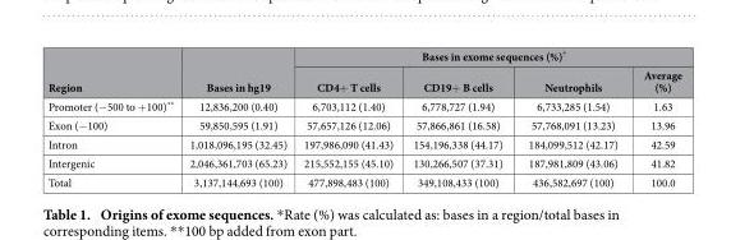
<table><thead><tr><td rowspan="2">Region</td><td rowspan="2">Bases in hg19</td><td colspan="4">Bases in exome sequences (%)*</td></tr><tr><td>CD4+ T cells</td><td>CD19+ B cells</td><td>Neutrophils</td><td>Average (%)</td></tr></thead><tbody><tr><td>Promoter (− 500 to + 100)**</td><td>12,836,200 (0.40)</td><td>6,703,112 (1.40)</td><td>6,778,727 (1.94)</td><td>6,733,285 (1.54)</td><td>1.63</td></tr><tr><td>Exon (− 100)</td><td>59,850,595 (1.91)</td><td>57,657,126 (12.06)</td><td>57,866,861 (16.58)</td><td>57,768,091 (13.23)</td><td>13.96</td></tr><tr><td>Intron</td><td>1,018,096,195 (32.45)</td><td>197,986,090 (41.43)</td><td>154,196,338 (44.17)</td><td>184,099,512 (42.17)</td><td>42.59</td></tr><tr><td>Intergenic</td><td>2,046,361,703 (65.23)</td><td>215,552,155 (45.10)</td><td>130,266,507 (37.31)</td><td>187,981,809 (43.06)</td><td>41.82</td></tr><tr><td>Total</td><td>3,137,144,693 (100)</td><td>477,898,483 (100)</td><td>349,108,433 (100)</td><td>436,582,697 (100)</td><td>100.0</td></tr></tbody></table>